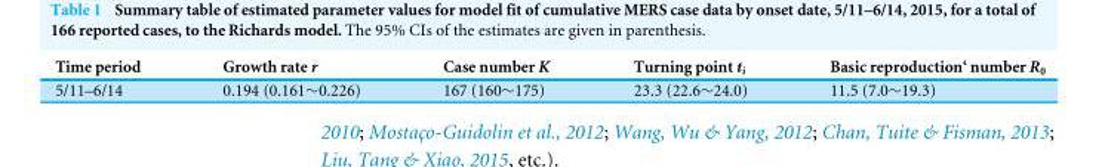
<table><thead><tr><td>Time period</td><td>Growth rate r</td><td>Case number K</td><td>Turning point t<sub>i</sub></td><td>Basic reproduction‘ number R<sub>0</sub></td></tr></thead><tbody><tr><td>5/11–6/14</td><td>0.194 (0.161∼0.226)</td><td>167 (160∼175)</td><td>23.3 (22.6∼24.0)</td><td>11.5 (7.0∼19.3)</td></tr></tbody></table>